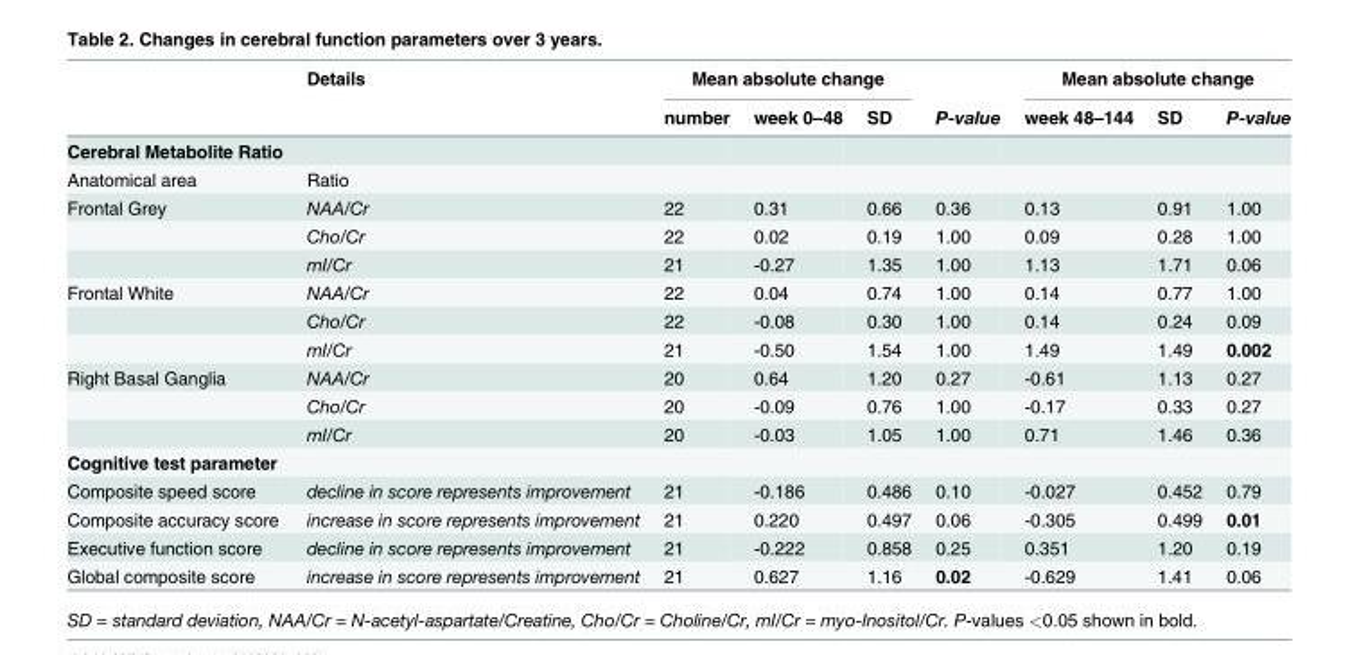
<table><thead><tr><td rowspan="2"></td><td rowspan="2">Details</td><td colspan="3">Mean absolute change</td><td rowspan="2">P-value</td><td colspan="3">Mean absolute change</td></tr><tr><td>number</td><td>week 0–48</td><td>SD</td><td>week 48–144</td><td>SD</td><td>P-value</td></tr></thead><tbody><tr><td colspan="9">Cerebral Metabolite Ratio</td></tr><tr><td>Anatomical area</td><td>Ratio</td><td></td><td></td><td></td><td></td><td></td><td></td><td></td></tr><tr><td rowspan="3">Frontal Grey</td><td>NAA/Cr</td><td>22</td><td>0.31</td><td>0.66</td><td>0.36</td><td>0.13</td><td>0.91</td><td>1.00</td></tr><tr><td>Cho/Cr</td><td>22</td><td>0.02</td><td>0.19</td><td>1.00</td><td>0.09</td><td>0.28</td><td>1.00</td></tr><tr><td>mI/Cr</td><td>21</td><td>-0.27</td><td>1.35</td><td>1.00</td><td>1.13</td><td>1.71</td><td>0.06</td></tr><tr><td rowspan="3">Frontal White</td><td>NAA/Cr</td><td>22</td><td>0.04</td><td>0.74</td><td>1.00</td><td>0.14</td><td>0.77</td><td>1.00</td></tr><tr><td>Cho/Cr</td><td>22</td><td>-0.08</td><td>0.30</td><td>1.00</td><td>0.14</td><td>0.24</td><td>0.09</td></tr><tr><td>mI/Cr</td><td>21</td><td>-0.50</td><td>1.54</td><td>1.00</td><td>1.49</td><td>1.49</td><td>0.002</td></tr><tr><td rowspan="3">Right Basal Ganglia</td><td>NAA/Cr</td><td>20</td><td>0.64</td><td>1.20</td><td>0.27</td><td>-0.61</td><td>1.13</td><td>0.27</td></tr><tr><td>Cho/Cr</td><td>20</td><td>-0.09</td><td>0.76</td><td>1.00</td><td>-0.17</td><td>0.33</td><td>0.27</td></tr><tr><td>mI/Cr</td><td>20</td><td>-0.03</td><td>1.05</td><td>1.00</td><td>0.71</td><td>1.46</td><td>0.36</td></tr><tr><td colspan="9">Cognitive test parameter</td></tr><tr><td>Composite speed score</td><td>decline in score represents improvement</td><td>21</td><td>-0.186</td><td>0.486</td><td>0.10</td><td>-0.027</td><td>0.452</td><td>0.79</td></tr><tr><td>Composite accuracy score</td><td>increase in score represents improvement</td><td>21</td><td>0.220</td><td>0.497</td><td>0.06</td><td>-0.305</td><td>0.499</td><td>0.01</td></tr><tr><td>Executive function score</td><td>decline in score represents improvement</td><td>21</td><td>-0.222</td><td>0.858</td><td>0.25</td><td>0.351</td><td>1.20</td><td>0.19</td></tr><tr><td>Global composite score</td><td>increase in score represents improvement</td><td>21</td><td>0.627</td><td>1.16</td><td>0.02</td><td>-0.629</td><td>1.41</td><td>0.06</td></tr></tbody></table>